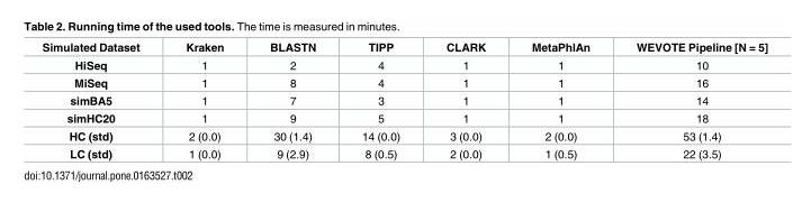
<table><thead><tr><td>Simulated Dataset</td><td>Kraken</td><td>BLASTN</td><td>TIPP</td><td>CLARK</td><td>MetaPhlAn</td><td>WEVOTE Pipeline [N = 5]</td></tr></thead><tbody><tr><td>HiSeq</td><td>1</td><td>2</td><td>4</td><td>1</td><td>1</td><td>10</td></tr><tr><td>MiSeq</td><td>1</td><td>8</td><td>4</td><td>1</td><td>1</td><td>16</td></tr><tr><td>simBA5</td><td>1</td><td>7</td><td>3</td><td>1</td><td>1</td><td>14</td></tr><tr><td>simHC20</td><td>1</td><td>9</td><td>5</td><td>1</td><td>1</td><td>18</td></tr><tr><td>HC (std)</td><td>2 (0.0)</td><td>30 (1.4)</td><td>14 (0.0)</td><td>3 (0.0)</td><td>2 (0.0)</td><td>53 (1.4)</td></tr><tr><td>LC (std)</td><td>1 (0.0)</td><td>9 (2.9)</td><td>8 (0.5)</td><td>2 (0.0)</td><td>1 (0.5)</td><td>22 (3.5)</td></tr></tbody></table>